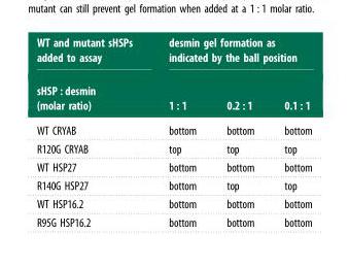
<table><thead><tr><td rowspan="2">WT and mutant sHSPs added to assay sHSP : desmin (molar ratio)</td><td colspan="3">desmin gel formation as indicated by the ball position</td></tr><tr><td>1 : 1</td><td>0.2 : 1</td><td>0.1 : 1</td></tr></thead><tbody><tr><td>WT CRYAB</td><td>bottom</td><td>bottom</td><td>bottom</td></tr><tr><td>R120G CRYAB</td><td>top</td><td>top</td><td>top</td></tr><tr><td>WT HSP27</td><td>bottom</td><td>bottom</td><td>bottom</td></tr><tr><td>R140G HSP27</td><td>bottom</td><td>top</td><td>top</td></tr><tr><td>WT HSP16.2</td><td>bottom</td><td>bottom</td><td>bottom</td></tr><tr><td>R95G HSP16.2</td><td>bottom</td><td>bottom</td><td>bottom</td></tr></tbody></table>